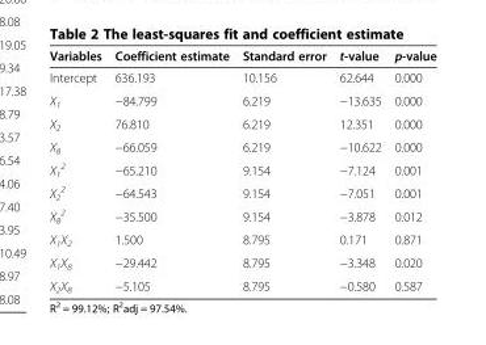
<table><thead><tr><td>Variables</td><td>Coefficient estimate</td><td>Standard error</td><td>t-value</td><td>p-value</td></tr></thead><tbody><tr><td>Intercept</td><td>636.193</td><td>10.156</td><td>62.644</td><td>0.000</td></tr><tr><td>X<sub>1</sub></td><td>−84.799</td><td>6.219</td><td>−13.635</td><td>0.000</td></tr><tr><td>X<sub>2</sub></td><td>76.810</td><td>6.219</td><td>12.351</td><td>0.000</td></tr><tr><td>X<sub>8</sub></td><td>−66.059</td><td>6.219</td><td>−10.622</td><td>0.000</td></tr><tr><td>X<sub>1</sub> <sup>2</sup></td><td>−65.210</td><td>9.154</td><td>−7.124</td><td>0.001</td></tr><tr><td>X<sub>2</sub> <sup>2</sup></td><td>−64.543</td><td>9.154</td><td>−7.051</td><td>0.001</td></tr><tr><td>X<sub>8</sub> <sup>2</sup></td><td>−35.500</td><td>9.154</td><td>−3.878</td><td>0.012</td></tr><tr><td>X<sub>1</sub>X<sub>2</sub></td><td>1.500</td><td>8.795</td><td>0.171</td><td>0.871</td></tr><tr><td>X<sub>1</sub>X<sub>8</sub></td><td>−29.442</td><td>8.795</td><td>−3.348</td><td>0.020</td></tr><tr><td>X<sub>2</sub>X<sub>8</sub></td><td>−5.105</td><td>8.795</td><td>−0.580</td><td>0.587</td></tr></tbody></table>